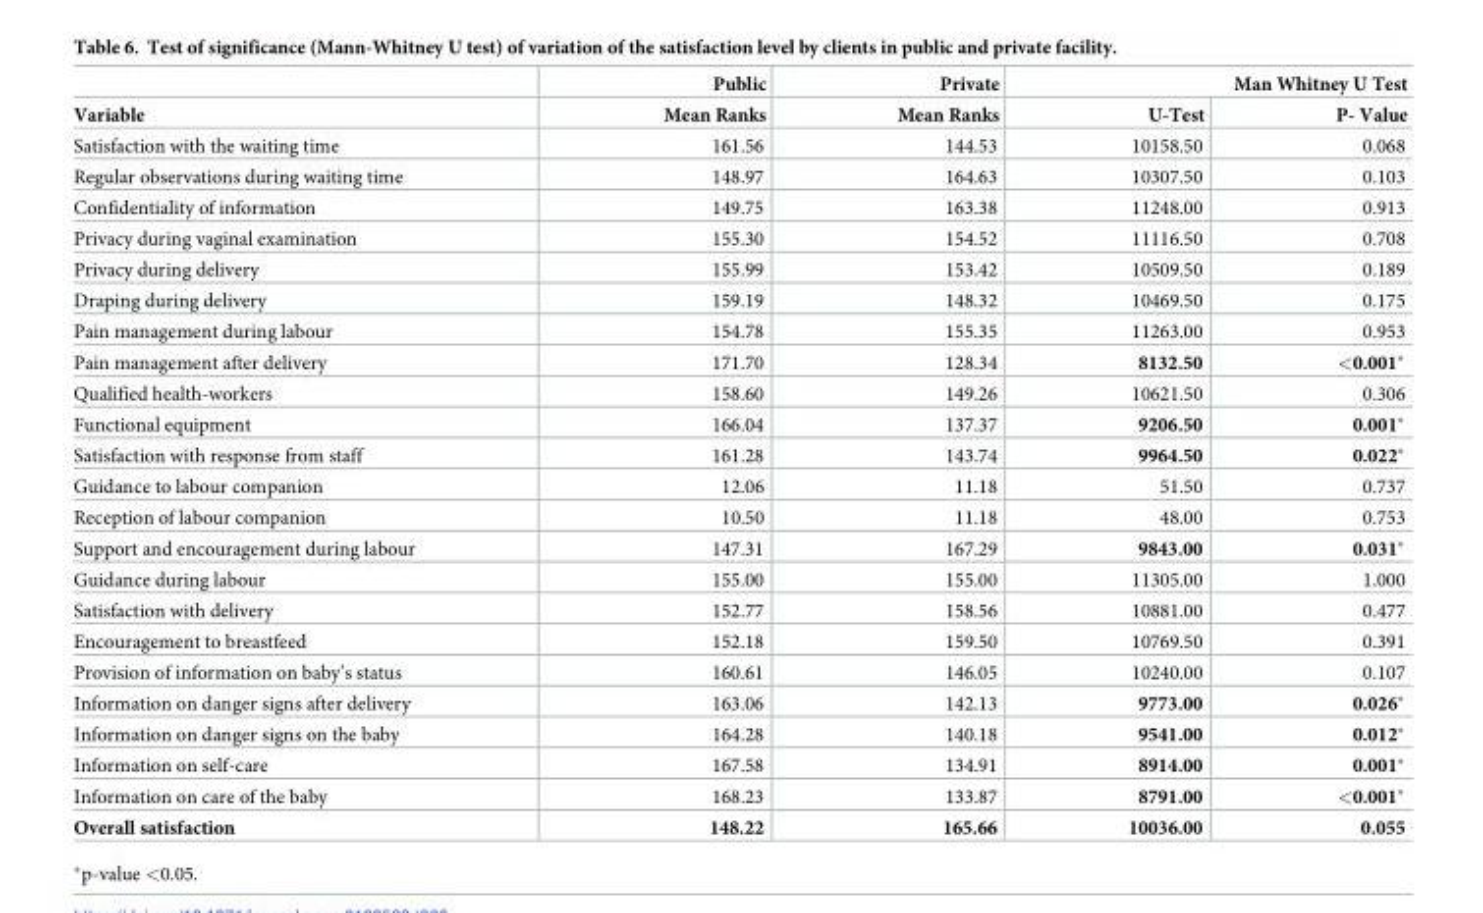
<table><thead><tr><td rowspan="2">Variable</td><td rowspan="2">Public Mean Ranks</td><td rowspan="2">Private Mean Ranks</td><td colspan="2">Man Whitney U Test</td></tr><tr><td>U-Test</td><td>P- Value</td></tr></thead><tbody><tr><td>Satisfaction with the waiting time</td><td>161.56</td><td>144.53</td><td>10158.50</td><td>0.068</td></tr><tr><td>Regular observations during waiting time</td><td>148.97</td><td>164.63</td><td>10307.50</td><td>0.103</td></tr><tr><td>Confidentiality of information</td><td>149.75</td><td>163.38</td><td>11248.00</td><td>0.913</td></tr><tr><td>Privacy during vaginal examination</td><td>155.30</td><td>154.52</td><td>11116.50</td><td>0.708</td></tr><tr><td>Privacy during delivery</td><td>155.99</td><td>153.42</td><td>10509.50</td><td>0.189</td></tr><tr><td>Draping during delivery</td><td>159.19</td><td>148.32</td><td>10469.50</td><td>0.175</td></tr><tr><td>Pain management during labour</td><td>154.78</td><td>155.35</td><td>11263.00</td><td>0.953</td></tr><tr><td>Pain management after delivery</td><td>171.70</td><td>128.34</td><td>8132.50</td><td>&lt;0.001*</td></tr><tr><td>Qualified health-workers</td><td>158.60</td><td>149.26</td><td>10621.50</td><td>0.306</td></tr><tr><td>Functional equipment</td><td>166.04</td><td>137.37</td><td>9206.50</td><td>0.001*</td></tr><tr><td>Satisfaction with response from staff</td><td>161.28</td><td>143.74</td><td>9964.50</td><td>0.022*</td></tr><tr><td>Guidance to labour companion</td><td>12.06</td><td>11.18</td><td>51.50</td><td>0.737</td></tr><tr><td>Reception of labour companion</td><td>10.50</td><td>11.18</td><td>48.00</td><td>0.753</td></tr><tr><td>Support and encouragement during labour</td><td>147.31</td><td>167.29</td><td>9843.00</td><td>0.031*</td></tr><tr><td>Guidance during labour</td><td>155.00</td><td>155.00</td><td>11305.00</td><td>1.000</td></tr><tr><td>Satisfaction with delivery</td><td>152.77</td><td>158.56</td><td>10881.00</td><td>0.477</td></tr><tr><td>Encouragement to breastfeed</td><td>152.18</td><td>159.50</td><td>10769.50</td><td>0.391</td></tr><tr><td>Provision of information on baby’s status</td><td>160.61</td><td>146.05</td><td>10240.00</td><td>0.107</td></tr><tr><td>Information on danger signs after delivery</td><td>163.06</td><td>142.13</td><td>9773.00</td><td>0.026*</td></tr><tr><td>Information on danger signs on the baby</td><td>164.28</td><td>140.18</td><td>9541.00</td><td>0.012*</td></tr><tr><td>Information on self-care</td><td>167.58</td><td>134.91</td><td>8914.00</td><td>0.001*</td></tr><tr><td>Information on care of the baby</td><td>168.23</td><td>133.87</td><td>8791.00</td><td>&lt;0.001*</td></tr><tr><td>Overall satisfaction</td><td>148.22</td><td>165.66</td><td>10036.00</td><td>0.055</td></tr></tbody></table>